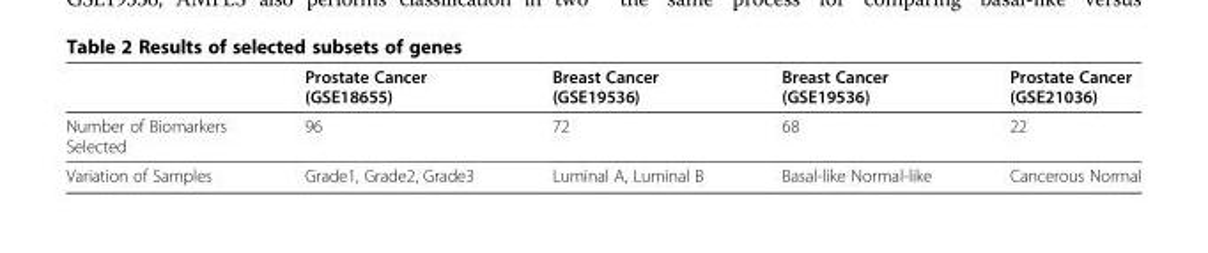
<table><thead><tr><td></td><td>Prostate Cancer (GSE18655)</td><td>Breast Cancer (GSE19536)</td><td>Breast Cancer (GSE19536)</td><td>Prostate Cancer (GSE21036)</td></tr></thead><tbody><tr><td>Number of Biomarkers Selected</td><td>96</td><td>72</td><td>68</td><td>22</td></tr><tr><td>Variation of Samples</td><td>Grade1, Grade2, Grade3</td><td>Luminal A, Luminal B</td><td>Basal-like Normal-like</td><td>Cancerous Normal</td></tr></tbody></table>